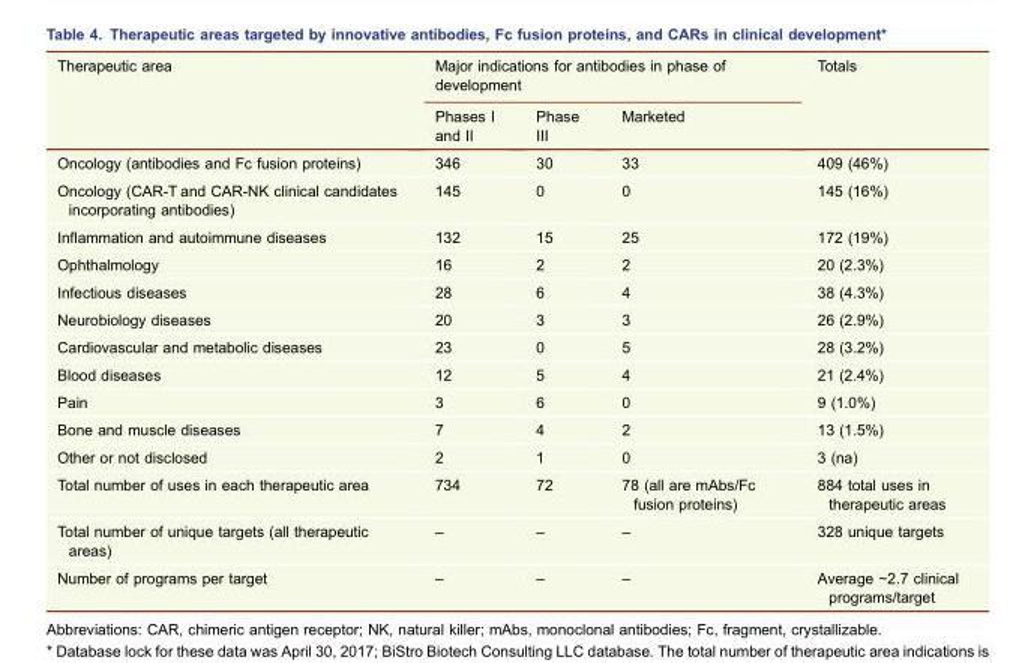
<table><thead><tr><td rowspan="2">Therapeutic area</td><td colspan="3">Major indications for antibodies in phase of development</td><td rowspan="2">Totals</td></tr><tr><td>Phases I and II</td><td>Phase III</td><td>Marketed</td></tr></thead><tbody><tr><td>Oncology (antibodies and Fc fusion proteins)</td><td>346</td><td>30</td><td>33</td><td>409 (46%)</td></tr><tr><td>Oncology (CAR-T and CAR-NK clinical candidates incorporating antibodies)</td><td>145</td><td>0</td><td>0</td><td>145 (16%)</td></tr><tr><td>Inflammation and autoimmune diseases</td><td>132</td><td>15</td><td>25</td><td>172 (19%)</td></tr><tr><td>Ophthalmology</td><td>16</td><td>2</td><td>2</td><td>20 (2.3%)</td></tr><tr><td>Infectious diseases</td><td>28</td><td>6</td><td>4</td><td>38 (4.3%)</td></tr><tr><td>Neurobiology diseases</td><td>20</td><td>3</td><td>3</td><td>26 (2.9%)</td></tr><tr><td>Cardiovascular and metabolic diseases</td><td>23</td><td>0</td><td>5</td><td>28 (3.2%)</td></tr><tr><td>Blood diseases</td><td>12</td><td>5</td><td>4</td><td>21 (2.4%)</td></tr><tr><td>Pain</td><td>3</td><td>6</td><td>0</td><td>9 (1.0%)</td></tr><tr><td>Bone and muscle diseases</td><td>7</td><td>4</td><td>2</td><td>13 (1.5%)</td></tr><tr><td>Other or not disclosed</td><td>2</td><td>1</td><td>0</td><td>3 (na)</td></tr><tr><td>Total number of uses in each therapeutic area</td><td>734</td><td>72</td><td>78 (all are mAbs/Fc fusion proteins)</td><td>884 total uses in therapeutic areas</td></tr><tr><td>Total number of unique targets (all therapeutic areas)</td><td>–</td><td>–</td><td>–</td><td>328 unique targets</td></tr><tr><td>Number of programs per target</td><td>–</td><td>–</td><td>–</td><td>Average ∼2.7 clinical programs/target</td></tr></tbody></table>